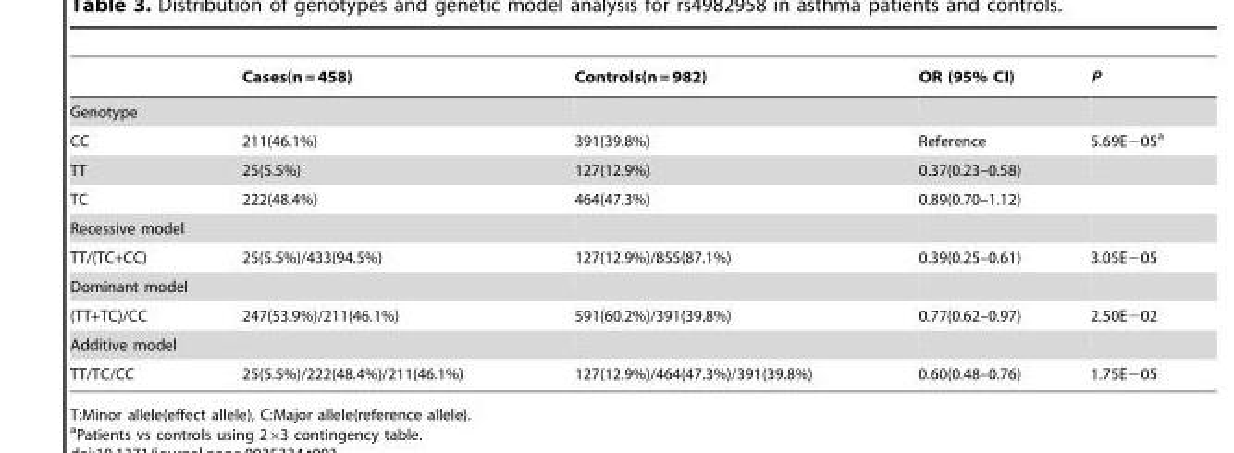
<table><thead><tr><td></td><td>Cases(n = 458)</td><td>Controls(n = 982)</td><td>OR (95% CI)</td><td>P</td></tr></thead><tbody><tr><td colspan="5">Genotype</td></tr><tr><td>CC</td><td>211(46.1%)</td><td>391(39.8%)</td><td>Reference</td><td>5.69E−05<sup>a</sup></td></tr><tr><td>TT</td><td>25(5.5%)</td><td>127(12.9%)</td><td>0.37(0.23–0.58)</td><td></td></tr><tr><td>TC</td><td>222(48.4%)</td><td>464(47.3%)</td><td>0.89(0.70–1.12)</td><td></td></tr><tr><td colspan="5">Recessive model</td></tr><tr><td>TT/(TC+CC)</td><td>25(5.5%)/433(94.5%)</td><td>127(12.9%)/855(87.1%)</td><td>0.39(0.25–0.61)</td><td>3.05E−05</td></tr><tr><td colspan="5">Dominant model</td></tr><tr><td>(TT+TC)/CC</td><td>247(53.9%)/211(46.1%)</td><td>591(60.2%)/391(39.8%)</td><td>0.77(0.62–0.97)</td><td>2.50E−02</td></tr><tr><td colspan="5">Additive model</td></tr><tr><td>TT/TC/CC</td><td>25(5.5%)/222(48.4%)/211(46.1%)</td><td>127(12.9%)/464(47.3%)/391(39.8%)</td><td>0.60(0.48–0.76)</td><td>1.75E−05</td></tr></tbody></table>